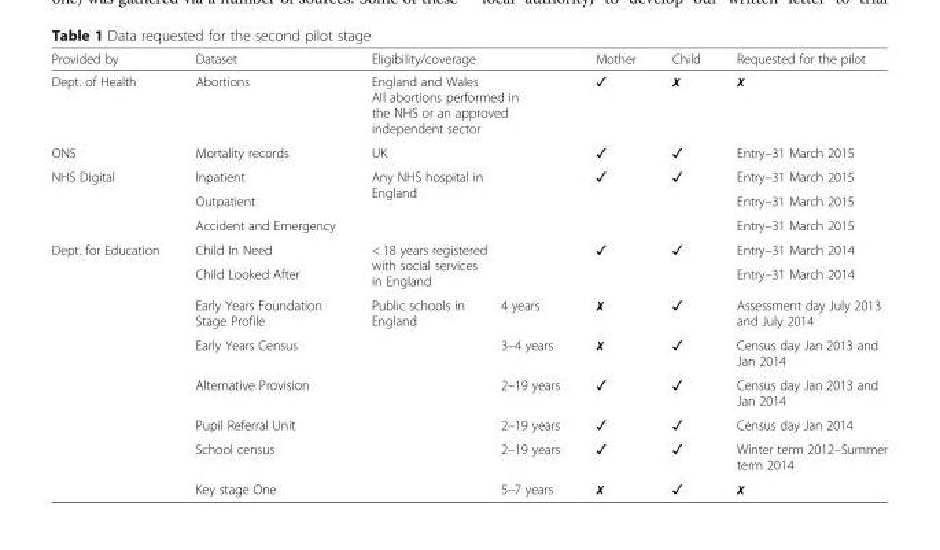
<table><thead><tr><td>Provided by</td><td>Dataset</td><td colspan="2">Eligibility/coverage</td><td>Mother</td><td>Child</td><td>Requested for the pilot</td></tr></thead><tbody><tr><td>Dept. of Health</td><td>Abortions</td><td colspan="2">England and Wales All abortions performed in the NHS or an approved independent sector</td><td>✓</td><td>✗</td><td>✗</td></tr><tr><td>ONS</td><td>Mortality records</td><td colspan="2">UK</td><td>✓</td><td>✓</td><td>Entry–31 March 2015</td></tr><tr><td rowspan="3">NHS Digital</td><td>Inpatient</td><td rowspan="3" colspan="2">Any NHS hospital in England</td><td rowspan="3">✓</td><td rowspan="3">✓</td><td>Entry–31 March 2015</td></tr><tr><td>Outpatient</td><td>Entry–31 March 2015</td></tr><tr><td>Accident and Emergency</td><td>Entry–31 March 2015</td></tr><tr><td rowspan="8">Dept. for Education</td><td>Child In Need</td><td rowspan="2" colspan="2">&lt; 18 years registered with social services in England</td><td rowspan="2">✓</td><td rowspan="2">✓</td><td>Entry–31 March 2014</td></tr><tr><td>Child Looked After</td><td>Entry–31 March 2014</td></tr><tr><td>Early Years Foundation Stage Profile</td><td rowspan="6">Public schools in England</td><td>4 years</td><td>✗</td><td>✓</td><td>Assessment day July 2013 and July 2014</td></tr><tr><td>Early Years Census</td><td>3–4 years</td><td>✗</td><td>✓</td><td>Census day Jan 2013 and Jan 2014</td></tr><tr><td>Alternative Provision</td><td>2–19 years</td><td>✓</td><td>✓</td><td>Census day Jan 2013 and Jan 2014</td></tr><tr><td>Pupil Referral Unit</td><td>2–19 years</td><td>✓</td><td>✓</td><td>Census day Jan 2014</td></tr><tr><td>School census</td><td>2–19 years</td><td>✓</td><td>✓</td><td>Winter term 2012–Summer term 2014</td></tr><tr><td>Key stage One</td><td>5–7 years</td><td>✗</td><td>✓</td><td>✗</td></tr></tbody></table>